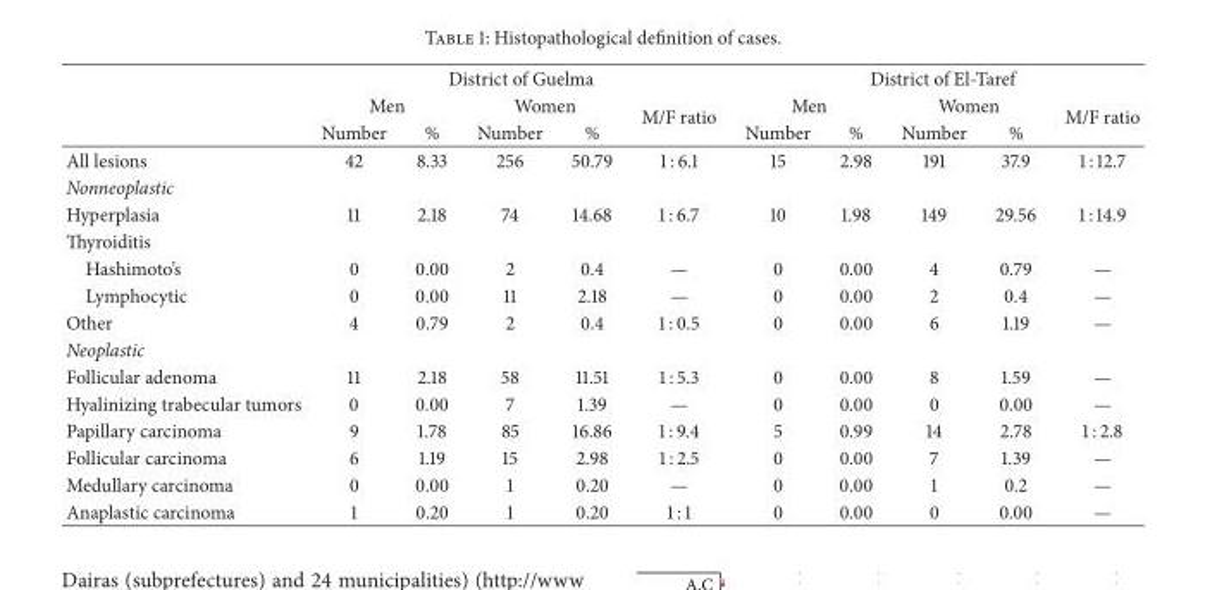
<table><thead><tr><td rowspan="3"></td><td colspan="5">District of Guelma</td><td colspan="5">District of El-Taref</td></tr><tr><td colspan="2">Men</td><td colspan="2">Women</td><td rowspan="2">M/F ratio</td><td colspan="2">Men</td><td colspan="2">Women</td><td rowspan="2">M/F ratio</td></tr><tr><td>Number</td><td>%</td><td>Number</td><td>%</td><td>Number</td><td>%</td><td>Number</td><td>%</td></tr></thead><tbody><tr><td>All lesions</td><td>42</td><td>8.33</td><td>256</td><td>50.79</td><td>1 : 6.1</td><td>15</td><td>2.98</td><td>191</td><td>37.9</td><td>1 : 12.7</td></tr><tr><td colspan="11">Nonneoplastic</td></tr><tr><td>Hyperplasia</td><td>11</td><td>2.18</td><td>74</td><td>14.68</td><td>1 : 6.7</td><td>10</td><td>1.98</td><td>149</td><td>29.56</td><td>1 : 14.9</td></tr><tr><td colspan="11">Thyroiditis</td></tr><tr><td>Hashimoto’s</td><td>0</td><td>0.00</td><td>2</td><td>0.4</td><td>—</td><td>0</td><td>0.00</td><td>4</td><td>0.79</td><td>—</td></tr><tr><td>Lymphocytic</td><td>0</td><td>0.00</td><td>11</td><td>2.18</td><td>—</td><td>0</td><td>0.00</td><td>2</td><td>0.4</td><td>—</td></tr><tr><td>Other</td><td>4</td><td>0.79</td><td>2</td><td>0.4</td><td>1 : 0.5</td><td>0</td><td>0.00</td><td>6</td><td>1.19</td><td>—</td></tr><tr><td colspan="11">Neoplastic</td></tr><tr><td>Follicular adenoma</td><td>11</td><td>2.18</td><td>58</td><td>11.51</td><td>1 : 5.3</td><td>0</td><td>0.00</td><td>8</td><td>1.59</td><td>—</td></tr><tr><td>Hyalinizing trabecular tumors</td><td>0</td><td>0.00</td><td>7</td><td>1.39</td><td>—</td><td>0</td><td>0.00</td><td>0</td><td>0.00</td><td>—</td></tr><tr><td>Papillary carcinoma</td><td>9</td><td>1.78</td><td>85</td><td>16.86</td><td>1 : 9.4</td><td>5</td><td>0.99</td><td>14</td><td>2.78</td><td>1 : 2.8</td></tr><tr><td>Follicular carcinoma</td><td>6</td><td>1.19</td><td>15</td><td>2.98</td><td>1 : 2.5</td><td>0</td><td>0.00</td><td>7</td><td>1.39</td><td>—</td></tr><tr><td>Medullary carcinoma</td><td>0</td><td>0.00</td><td>1</td><td>0.20</td><td>—</td><td>0</td><td>0.00</td><td>1</td><td>0.2</td><td>—</td></tr><tr><td>Anaplastic carcinoma</td><td>1</td><td>0.20</td><td>1</td><td>0.20</td><td>1 : 1</td><td>0</td><td>0.00</td><td>0</td><td>0.00</td><td>—</td></tr></tbody></table>